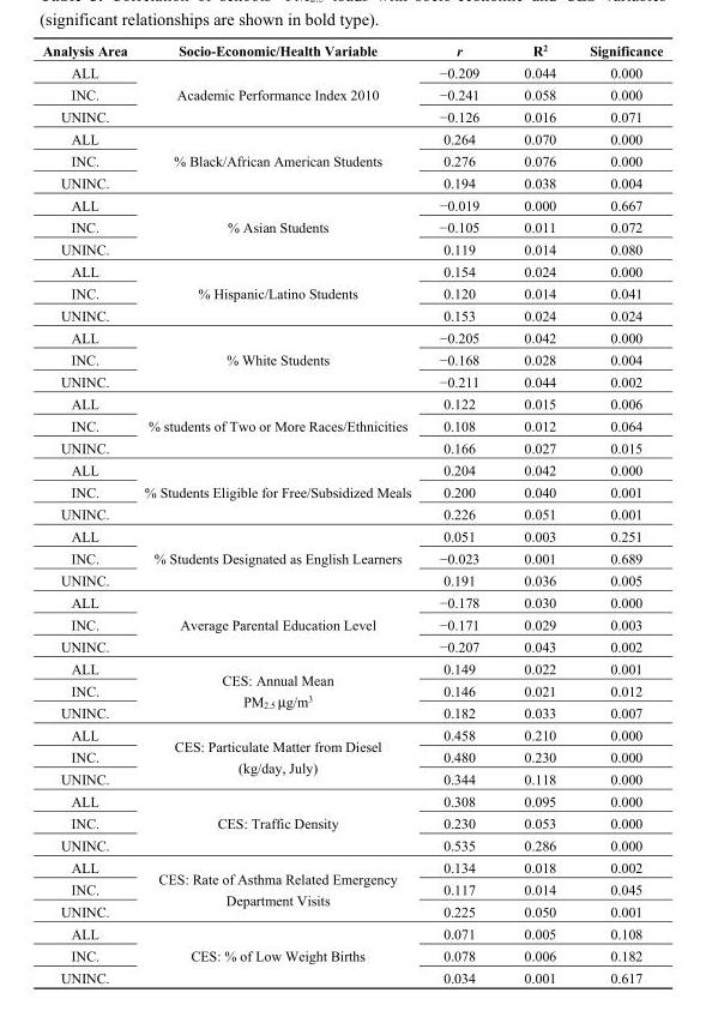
<table><thead><tr><td>Analysis Area</td><td>Socio-Economic/Health Variable</td><td>r</td><td>R<sup>2</sup></td><td>Significance</td></tr></thead><tbody><tr><td>ALL</td><td rowspan="3">Academic Performance Index 2010</td><td>−0.209</td><td>0.044</td><td>0.000</td></tr><tr><td>INC.</td><td>−0.241</td><td>0.058</td><td>0.000</td></tr><tr><td>UNINC.</td><td>−0.126</td><td>0.016</td><td>0.071</td></tr><tr><td>ALL</td><td rowspan="3">% Black/African American Students</td><td>0.264</td><td>0.070</td><td>0.000</td></tr><tr><td>INC.</td><td>0.276</td><td>0.076</td><td>0.000</td></tr><tr><td>UNINC.</td><td>0.194</td><td>0.038</td><td>0.004</td></tr><tr><td>ALL</td><td rowspan="3">% Asian Students</td><td>−0.019</td><td>0.000</td><td>0.667</td></tr><tr><td>INC.</td><td>−0.105</td><td>0.011</td><td>0.072</td></tr><tr><td>UNINC.</td><td>0.119</td><td>0.014</td><td>0.080</td></tr><tr><td>ALL</td><td rowspan="3">% Hispanic/Latino Students</td><td>0.154</td><td>0.024</td><td>0.000</td></tr><tr><td>INC.</td><td>0.120</td><td>0.014</td><td>0.041</td></tr><tr><td>UNINC.</td><td>0.153</td><td>0.024</td><td>0.024</td></tr><tr><td>ALL</td><td rowspan="3">% White Students</td><td>−0.205</td><td>0.042</td><td>0.000</td></tr><tr><td>INC.</td><td>−0.168</td><td>0.028</td><td>0.004</td></tr><tr><td>UNINC.</td><td>−0.211</td><td>0.044</td><td>0.002</td></tr><tr><td>ALL</td><td rowspan="3">% students of Two or More Races/Ethnicities</td><td>0.122</td><td>0.015</td><td>0.006</td></tr><tr><td>INC.</td><td>0.108</td><td>0.012</td><td>0.064</td></tr><tr><td>UNINC.</td><td>0.166</td><td>0.027</td><td>0.015</td></tr><tr><td>ALL</td><td rowspan="3">% Students Eligible for Free/Subsidized Meals</td><td>0.204</td><td>0.042</td><td>0.000</td></tr><tr><td>INC.</td><td>0.200</td><td>0.040</td><td>0.001</td></tr><tr><td>UNINC.</td><td>0.226</td><td>0.051</td><td>0.001</td></tr><tr><td>ALL</td><td rowspan="3">% Students Designated as English Learners</td><td>0.051</td><td>0.003</td><td>0.251</td></tr><tr><td>INC.</td><td>−0.023</td><td>0.001</td><td>0.689</td></tr><tr><td>UNINC.</td><td>0.191</td><td>0.036</td><td>0.005</td></tr><tr><td>ALL</td><td rowspan="3">Average Parental Education Level</td><td>−0.178</td><td>0.030</td><td>0.000</td></tr><tr><td>INC.</td><td>−0.171</td><td>0.029</td><td>0.003</td></tr><tr><td>UNINC.</td><td>−0.207</td><td>0.043</td><td>0.002</td></tr><tr><td>ALL</td><td rowspan="3">CES: Annual Mean PM<sub>2.5</sub> μg/m<sup>3</sup></td><td>0.149</td><td>0.022</td><td>0.001</td></tr><tr><td>INC.</td><td>0.146</td><td>0.021</td><td>0.012</td></tr><tr><td>UNINC.</td><td>0.182</td><td>0.033</td><td>0.007</td></tr><tr><td>ALL</td><td rowspan="3">CES: Particulate Matter from Diesel (kg/day, July)</td><td>0.458</td><td>0.210</td><td>0.000</td></tr><tr><td>INC.</td><td>0.480</td><td>0.230</td><td>0.000</td></tr><tr><td>UNINC.</td><td>0.344</td><td>0.118</td><td>0.000</td></tr><tr><td>ALL</td><td rowspan="3">CES: Traffic Density</td><td>0.308</td><td>0.095</td><td>0.000</td></tr><tr><td>INC.</td><td>0.230</td><td>0.053</td><td>0.000</td></tr><tr><td>UNINC.</td><td>0.535</td><td>0.286</td><td>0.000</td></tr><tr><td>ALL</td><td rowspan="3">CES: Rate of Asthma Related Emergency Department Visits</td><td>0.134</td><td>0.018</td><td>0.002</td></tr><tr><td>INC.</td><td>0.117</td><td>0.014</td><td>0.045</td></tr><tr><td>UNINC.</td><td>0.225</td><td>0.050</td><td>0.001</td></tr><tr><td>ALL</td><td rowspan="3">CES: % of Low Weight Births</td><td>0.071</td><td>0.005</td><td>0.108</td></tr><tr><td>INC.</td><td>0.078</td><td>0.006</td><td>0.182</td></tr><tr><td>UNINC.</td><td>0.034</td><td>0.001</td><td>0.617</td></tr></tbody></table>